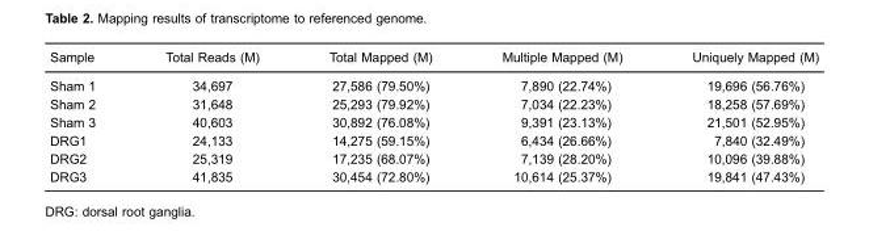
<table><thead><tr><td>Sample</td><td>Total Reads (M)</td><td>Total Mapped (M)</td><td>Multiple Mapped (M)</td><td>Uniquely Mapped (M)</td></tr></thead><tbody><tr><td>Sham 1</td><td>34,697</td><td>27,586 (79.50%)</td><td>7,890 (22.74%)</td><td>19,696 (56.76%)</td></tr><tr><td>Sham 2</td><td>31,648</td><td>25,293 (79.92%)</td><td>7,034 (22.23%)</td><td>18,258 (57.69%)</td></tr><tr><td>Sham 3</td><td>40,603</td><td>30,892 (76.08%)</td><td>9,391 (23.13%)</td><td>21,501 (52.95%)</td></tr><tr><td>DRG1</td><td>24,133</td><td>14,275 (59.15%)</td><td>6,434 (26.66%)</td><td>7,840 (32.49%)</td></tr><tr><td>DRG2</td><td>25,319</td><td>17,235 (68.07%)</td><td>7,139 (28.20%)</td><td>10,096 (39.88%)</td></tr><tr><td>DRG3</td><td>41,835</td><td>30,454 (72.80%)</td><td>10,614 (25.37%)</td><td>19,841 (47.43%)</td></tr></tbody></table>